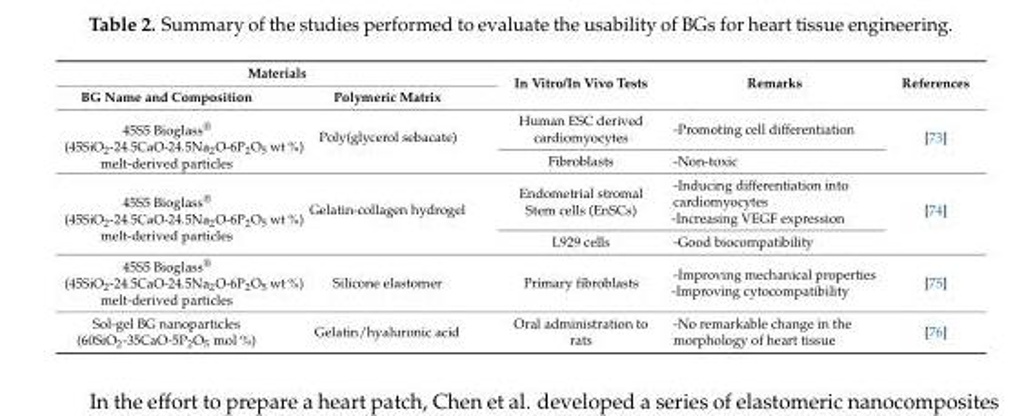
<table><thead><tr><td colspan="2">Materials</td><td rowspan="2">In Vitro/In Vivo Tests</td><td rowspan="2">Remarks</td><td rowspan="2">References</td></tr><tr><td>BG Name and Composition</td><td>Polymeric Matrix</td></tr></thead><tbody><tr><td rowspan="2">45S5 Bioglass<sup>®</sup> (45SiO<sub>2</sub>-24.5CaO-24.5Na<sub>2</sub>O-6P<sub>2</sub>O<sub>5</sub> wt %) melt-derived particles</td><td rowspan="2">Poly(glycerol sebacate)</td><td>Human ESC derived cardiomyocytes</td><td>-Promoting cell differentiation</td><td rowspan="2">[73]</td></tr><tr><td>Fibroblasts</td><td>-Non-toxic</td></tr><tr><td rowspan="2">45S5 Bioglass<sup>®</sup> (45SiO<sub>2</sub>-24.5CaO-24.5Na<sub>2</sub>O-6P<sub>2</sub>O<sub>5</sub> wt %) melt-derived particles</td><td rowspan="2">Gelatin-collagen hydrogel</td><td>Endometrial stromal Stem cells (EnSCs)</td><td>-Inducing differentiation into cardiomyocytes -Increasing VEGF expression</td><td rowspan="2">[74]</td></tr><tr><td>L929 cells</td><td>-Good biocompatibility</td></tr><tr><td>45S5 Bioglass<sup>®</sup> (45SiO<sub>2</sub>-24.5CaO-24.5Na<sub>2</sub>O-6P<sub>2</sub>O<sub>5</sub> wt %) melt-derived particles</td><td>Silicone elastomer</td><td>Primary fibroblasts</td><td>-Improving mechanical properties -Improving cytocompatibility</td><td>[75]</td></tr><tr><td>Sol-gel BG nanoparticles (60SiO<sub>2</sub>-35CaO-5P<sub>2</sub>O<sub>5</sub> mol %)</td><td>Gelatin/hyaluronic acid</td><td>Oral administration to rats</td><td>-No remarkable change in the morphology of heart tissue</td><td>[76]</td></tr></tbody></table>